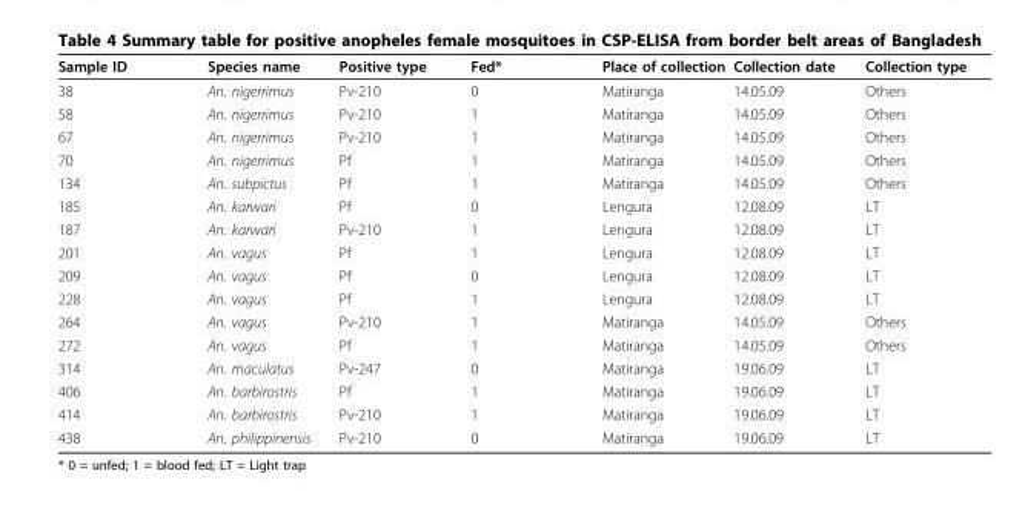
<table><thead><tr><td>Sample ID</td><td>Species name</td><td>Positive type</td><td>Fed*</td><td>Place of collection</td><td>Collection date</td><td>Collection type</td></tr></thead><tbody><tr><td>38</td><td>An. nigerrimus</td><td>Pv-210</td><td>0</td><td>Matiranga</td><td>14.05.09</td><td>Others</td></tr><tr><td>58</td><td>An. nigerrimus</td><td>Pv-210</td><td>1</td><td>Matiranga</td><td>14.05.09</td><td>Others</td></tr><tr><td>67</td><td>An. nigerrimus</td><td>Pv-210</td><td>1</td><td>Matiranga</td><td>14.05.09</td><td>Others</td></tr><tr><td>70</td><td>An. nigerrimus</td><td>Pf</td><td>1</td><td>Matiranga</td><td>14.05.09</td><td>Others</td></tr><tr><td>134</td><td>An. subpictus</td><td>Pf</td><td>1</td><td>Matiranga</td><td>14.05.09</td><td>Others</td></tr><tr><td>185</td><td>An. karwari</td><td>Pf</td><td>0</td><td>Lengura</td><td>12.08.09</td><td>LT</td></tr><tr><td>187</td><td>An. karwari</td><td>Pv-210</td><td>1</td><td>Lengura</td><td>12.08.09</td><td>LT</td></tr><tr><td>201</td><td>An. vagus</td><td>Pf</td><td>1</td><td>Lengura</td><td>12.08.09</td><td>LT</td></tr><tr><td>209</td><td>An. vagus</td><td>Pf</td><td>0</td><td>Lengura</td><td>12.08.09</td><td>LT</td></tr><tr><td>228</td><td>An. vagus</td><td>Pf</td><td>1</td><td>Lengura</td><td>12.08.09</td><td>LT</td></tr><tr><td>264</td><td>An. vagus</td><td>Pv-210</td><td>1</td><td>Matiranga</td><td>14.05.09</td><td>Others</td></tr><tr><td>272</td><td>An. vagus</td><td>Pf</td><td>1</td><td>Matiranga</td><td>14.05.09</td><td>Others</td></tr><tr><td>314</td><td>An. maculatus</td><td>Pv-247</td><td>0</td><td>Matiranga</td><td>19.06.09</td><td>LT</td></tr><tr><td>406</td><td>An. barbirostris</td><td>Pf</td><td>1</td><td>Matiranga</td><td>19.06.09</td><td>LT</td></tr><tr><td>414</td><td>An. barbirostris</td><td>Pv-210</td><td>1</td><td>Matiranga</td><td>19.06.09</td><td>LT</td></tr><tr><td>438</td><td>An. philippinensis</td><td>Pv-210</td><td>0</td><td>Matiranga</td><td>19.06.09</td><td>LT</td></tr></tbody></table>